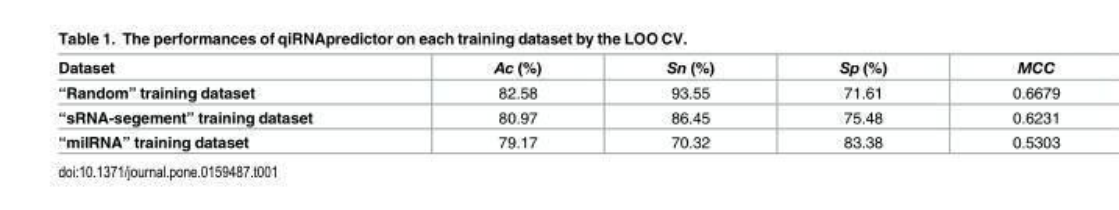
<table><thead><tr><td>Dataset</td><td>Ac (%)</td><td>Sn (%)</td><td>Sp (%)</td><td>MCC</td></tr></thead><tbody><tr><td>“Random” training dataset</td><td>82.58</td><td>93.55</td><td>71.61</td><td>0.6679</td></tr><tr><td>“sRNA-segement” training dataset</td><td>80.97</td><td>86.45</td><td>75.48</td><td>0.6231</td></tr><tr><td>“milRNA” training dataset</td><td>79.17</td><td>70.32</td><td>83.38</td><td>0.5303</td></tr></tbody></table>